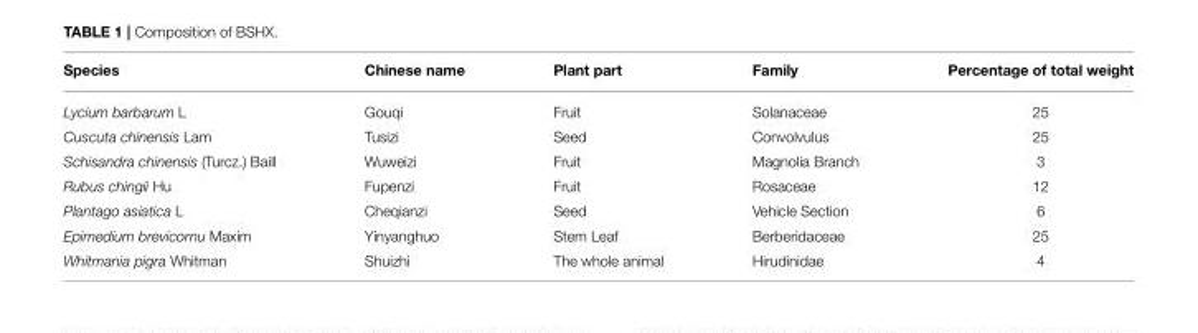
<table><thead><tr><td>Species</td><td>Chinese name</td><td>Plant part</td><td>Family</td><td>Percentage of total weight</td></tr></thead><tbody><tr><td>Lycium barbarum L</td><td>Gouqi</td><td>Fruit</td><td>Solanaceae</td><td>25</td></tr><tr><td>Cuscuta chinensis Lam</td><td>Tusizi</td><td>Seed</td><td>Convolvulus</td><td>25</td></tr><tr><td>Schisandra chinensis (Turcz.) Baill</td><td>Wuweizi</td><td>Fruit</td><td>Magnolia Branch</td><td>3</td></tr><tr><td>Rubus chingii Hu</td><td>Fupenzi</td><td>Fruit</td><td>Rosaceae</td><td>12</td></tr><tr><td>Plantago asiatica L</td><td>Cheqianzi</td><td>Seed</td><td>Vehicle Section</td><td>6</td></tr><tr><td>Epimedium brevicornu Maxim</td><td>Yinyanghuo</td><td>Stem Leaf</td><td>Berberidaceae</td><td>25</td></tr><tr><td>Whitmania pigra Whitman</td><td>Shuizhi</td><td>The whole animal</td><td>Hirudinidae</td><td>4</td></tr></tbody></table>